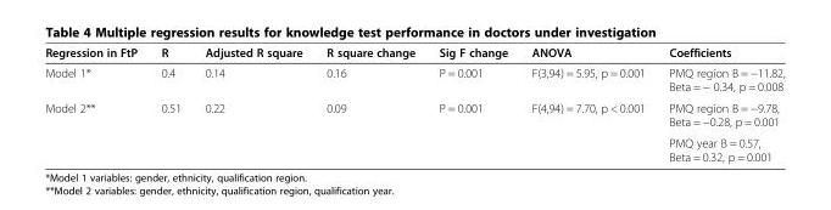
<table><thead><tr><td>Regression in FtP</td><td>R</td><td>Adjusted R square</td><td>R square change</td><td>Sig F change</td><td>ANOVA</td><td>Coefficients</td></tr></thead><tbody><tr><td>Model 1*</td><td>0.4</td><td>0.14</td><td>0.16</td><td>P = 0.001</td><td>F(3,94) = 5.95, p = 0.001</td><td>PMQ region B = −11.82, Beta = − 0.34, p = 0.008</td></tr><tr><td rowspan="2">Model 2**</td><td>0.51</td><td>0.22</td><td>0.09</td><td>P = 0.001</td><td>F(4,94) = 7.70, p &lt; 0.001</td><td>PMQ region B = −9.78, Beta = −0.28, p = 0.001</td></tr><tr><td></td><td></td><td></td><td></td><td></td><td>PMQ year B = 0.57, Beta = 0.32, p = 0.001</td></tr></tbody></table>